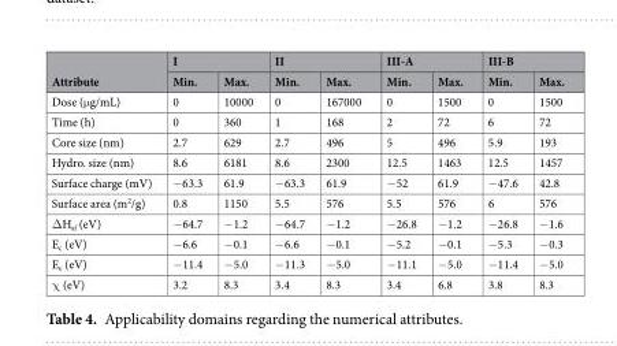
<table><thead><tr><td rowspan="2">Attribute</td><td colspan="2">I</td><td colspan="2">II</td><td colspan="2">III-A</td><td colspan="2">III-B</td></tr><tr><td>Min.</td><td>Max.</td><td>Min.</td><td>Max.</td><td>Min.</td><td>Max.</td><td>Min.</td><td>Max.</td></tr></thead><tbody><tr><td>Dose (μg/mL)</td><td>0</td><td>10000</td><td>0</td><td>167000</td><td>0</td><td>1500</td><td>0</td><td>1500</td></tr><tr><td>Time (h)</td><td>0</td><td>360</td><td>1</td><td>168</td><td>2</td><td>72</td><td>6</td><td>72</td></tr><tr><td>Core size (nm)</td><td>2.7</td><td>629</td><td>2.7</td><td>496</td><td>5</td><td>496</td><td>5.9</td><td>193</td></tr><tr><td>Hydro. size (nm)</td><td>8.6</td><td>6181</td><td>8.6</td><td>2300</td><td>12.5</td><td>1463</td><td>12.5</td><td>1457</td></tr><tr><td>Surface charge (mV)</td><td>−63.3</td><td>61.9</td><td>−63.3</td><td>61.9</td><td>−52</td><td>61.9</td><td>−47.6</td><td>42.8</td></tr><tr><td>Surface area (m<sup>2</sup>/g)</td><td>0.8</td><td>1150</td><td>5.5</td><td>576</td><td>5.5</td><td>576</td><td>6</td><td>576</td></tr><tr><td>ΔH<sub>sf</sub> (eV)</td><td>−64.7</td><td>−1.2</td><td>−64.7</td><td>−1.2</td><td>−26.8</td><td>−1.2</td><td>−26.8</td><td>−1.6</td></tr><tr><td>E<sub>c</sub> (eV)</td><td>−6.6</td><td>−0.1</td><td>−6.6</td><td>−0.1</td><td>−5.2</td><td>−0.1</td><td>−5.3</td><td>−0.3</td></tr><tr><td>E<sub>v</sub> (eV)</td><td>−11.4</td><td>−5.0</td><td>−11.3</td><td>−5.0</td><td>−11.1</td><td>−5.0</td><td>−11.4</td><td>−5.0</td></tr><tr><td>χ (eV)</td><td>3.2</td><td>8.3</td><td>3.4</td><td>8.3</td><td>3.4</td><td>6.8</td><td>3.8</td><td>8.3</td></tr></tbody></table>